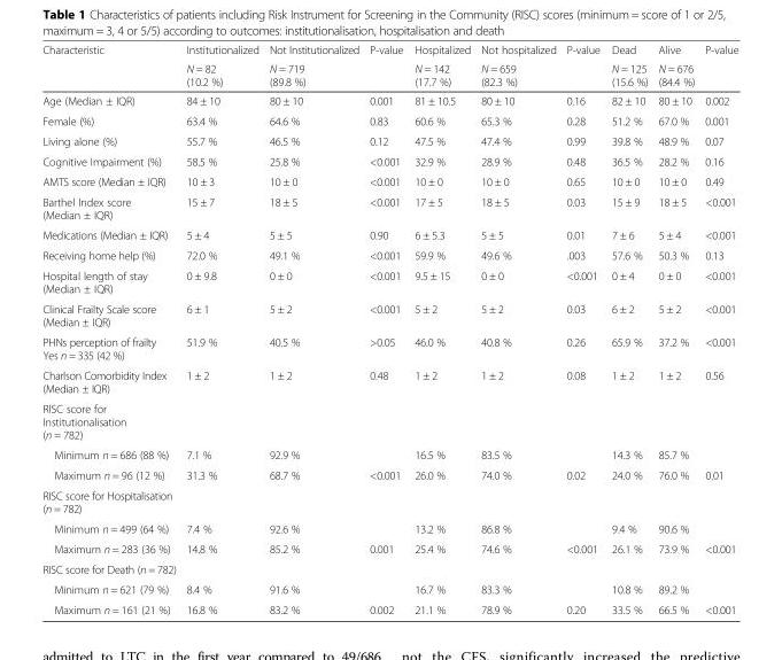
<table><thead><tr><td rowspan="2">Characteristic</td><td rowspan="2">Institutionalized N = 82 (10.2 %)</td><td rowspan="2">Not Institutionalized N = 719 (89.8 %)</td><td rowspan="2">P-value</td><td rowspan="2">Hospitalized N = 142 (17.7 %)</td><td rowspan="2">Not hospitalized N = 659 (82.3 %)</td><td rowspan="2">P-value</td><td rowspan="2">Dead N = 125 (15.6 %)</td><td rowspan="2">Alive N = 676 (84.4 %)</td><td rowspan="2">P-value</td></tr><tr></tr></thead><tbody><tr><td>Age (Median ± IQR)</td><td>84 ± 10</td><td>80 ± 10</td><td>0.001</td><td>81 ± 10.5</td><td>80 ± 10</td><td>0.16</td><td>82 ± 10</td><td>80 ± 10</td><td>0.002</td></tr><tr><td>Female (%)</td><td>63.4 %</td><td>64.6 %</td><td>0.83</td><td>60.6 %</td><td>65.3 %</td><td>0.28</td><td>51.2 %</td><td>67.0 %</td><td>0.001</td></tr><tr><td>Living alone (%)</td><td>55.7 %</td><td>46.5 %</td><td>0.12</td><td>47.5 %</td><td>47.4 %</td><td>0.99</td><td>39.8 %</td><td>48.9 %</td><td>0.07</td></tr><tr><td>Cognitive Impairment (%)</td><td>58.5 %</td><td>25.8 %</td><td>&lt;0.001</td><td>32.9 %</td><td>28.9 %</td><td>0.48</td><td>36.5 %</td><td>28.2 %</td><td>0.16</td></tr><tr><td>AMTS score (Median ± IQR)</td><td>10 ± 3</td><td>10 ± 0</td><td>&lt;0.001</td><td>10 ± 0</td><td>10 ± 0</td><td>0.65</td><td>10 ± 0</td><td>10 ± 0</td><td>0.49</td></tr><tr><td>Barthel Index score (Median ± IQR)</td><td>15 ± 7</td><td>18 ± 5</td><td>&lt;0.001</td><td>17 ± 5</td><td>18 ± 5</td><td>0.03</td><td>15 ± 9</td><td>18 ± 5</td><td>&lt;0.001</td></tr><tr><td>Medications (Median ± IQR)</td><td>5 ± 4</td><td>5 ± 5</td><td>0.90</td><td>6 ± 5.3</td><td>5 ± 5</td><td>0.01</td><td>7 ± 6</td><td>5 ± 4</td><td>&lt;0.001</td></tr><tr><td>Receiving home help (%)</td><td>72.0 %</td><td>49.1 %</td><td>&lt;0.001</td><td>59.9 %</td><td>49.6 %</td><td>.003</td><td>57.6 %</td><td>50.3 %</td><td>0.13</td></tr><tr><td>Hospital length of stay (Median ± IQR)</td><td>0 ± 9.8</td><td>0 ± 0</td><td>&lt;0.001</td><td>9.5 ± 15</td><td>0 ± 0</td><td>&lt;0.001</td><td>0 ± 4</td><td>0 ± 0</td><td>&lt;0.001</td></tr><tr><td>Clinical Frailty Scale score (Median ± IQR)</td><td>6 ± 1</td><td>5 ± 2</td><td>&lt;0.001</td><td>5 ± 2</td><td>5 ± 2</td><td>0.03</td><td>6 ± 2</td><td>5 ± 2</td><td>&lt;0.001</td></tr><tr><td>PHNs perception of frailty Yes n = 335 (42 %)</td><td>51.9 %</td><td>40.5 %</td><td>&gt;0.05</td><td>46.0 %</td><td>40.8 %</td><td>0.26</td><td>65.9 %</td><td>37.2 %</td><td>&lt;0.001</td></tr><tr><td>Charlson Comorbidity Index (Median ± IQR)</td><td>1 ± 2</td><td>1 ± 2</td><td>0.48</td><td>1 ± 2</td><td>1 ± 2</td><td>0.08</td><td>1 ± 2</td><td>1 ± 2</td><td>0.56</td></tr><tr><td colspan="10">RISC score for Institutionalisation (n = 782)</td></tr><tr><td>Minimum n = 686 (88 %)</td><td>7.1 %</td><td>92.9 %</td><td></td><td>16.5 %</td><td>83.5 %</td><td></td><td>14.3 %</td><td>85.7 %</td><td></td></tr><tr><td>Maximum n = 96 (12 %)</td><td>31.3 %</td><td>68.7 %</td><td>&lt;0.001</td><td>26.0 %</td><td>74.0 %</td><td>0.02</td><td>24.0 %</td><td>76.0 %</td><td>0.01</td></tr><tr><td colspan="10">RISC score for Hospitalisation (n = 782)</td></tr><tr><td>Minimum n = 499 (64 %)</td><td>7.4 %</td><td>92.6 %</td><td></td><td>13.2 %</td><td>86.8 %</td><td></td><td>9.4 %</td><td>90.6 %</td><td></td></tr><tr><td>Maximum n = 283 (36 %)</td><td>14.8 %</td><td>85.2 %</td><td>0.001</td><td>25.4 %</td><td>74.6 %</td><td>&lt;0.001</td><td>26.1 %</td><td>73.9 %</td><td>&lt;0.001</td></tr><tr><td colspan="10">RISC score for Death (n = 782)</td></tr><tr><td>Minimum n = 621 (79 %)</td><td>8.4 %</td><td>91.6 %</td><td></td><td>16.7 %</td><td>83.3 %</td><td></td><td>10.8 %</td><td>89.2 %</td><td></td></tr><tr><td>Maximum n = 161 (21 %)</td><td>16.8 %</td><td>83.2 %</td><td>0.002</td><td>21.1 %</td><td>78.9 %</td><td>0.20</td><td>33.5 %</td><td>66.5 %</td><td>&lt;0.001</td></tr></tbody></table>